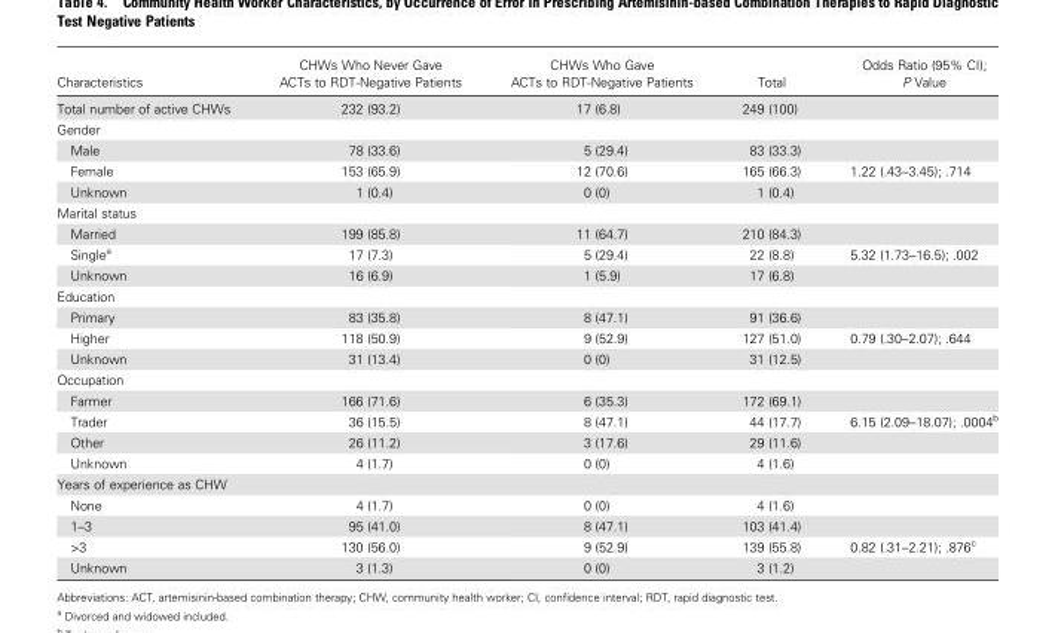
<table><thead><tr><td>Characteristics</td><td>CHWs Who Never Gave ACTs to RDT-Negative Patients</td><td>CHWs Who Gave ACTs to RDT-Negative Patients</td><td>Total</td><td>Odds Ratio (95% CI); P Value</td></tr></thead><tbody><tr><td>Total number of active CHWs</td><td>232 (93.2)</td><td>17 (6.8)</td><td>249 (100)</td><td></td></tr><tr><td colspan="5">Gender</td></tr><tr><td>Male</td><td>78 (33.6)</td><td>5 (29.4)</td><td>83 (33.3)</td><td></td></tr><tr><td>Female</td><td>153 (65.9)</td><td>12 (70.6)</td><td>165 (66.3)</td><td>1.22 (.43–3.45); .714</td></tr><tr><td>Unknown</td><td>1 (0.4)</td><td>0 (0)</td><td>1 (0.4)</td><td></td></tr><tr><td colspan="5">Marital status</td></tr><tr><td>Married</td><td>199 (85.8)</td><td>11 (64.7)</td><td>210 (84.3)</td><td></td></tr><tr><td>Single<sup>a</sup></td><td>17 (7.3)</td><td>5 (29.4)</td><td>22 (8.8)</td><td>5.32 (1.73–16.5); .002</td></tr><tr><td>Unknown</td><td>16 (6.9)</td><td>1 (5.9)</td><td>17 (6.8)</td><td></td></tr><tr><td colspan="5">Education</td></tr><tr><td>Primary</td><td>83 (35.8)</td><td>8 (47.1)</td><td>91 (36.6)</td><td></td></tr><tr><td>Higher</td><td>118 (50.9)</td><td>9 (52.9)</td><td>127 (51.0)</td><td>0.79 (.30–2.07); .644</td></tr><tr><td>Unknown</td><td>31 (13.4)</td><td>0 (0)</td><td>31 (12.5)</td><td></td></tr><tr><td colspan="5">Occupation</td></tr><tr><td>Farmer</td><td>166 (71.6)</td><td>6 (35.3)</td><td>172 (69.1)</td><td></td></tr><tr><td>Trader</td><td>36 (15.5)</td><td>8 (47.1)</td><td>44 (17.7)</td><td>6.15 (2.09–18.07); .0004<sup>b</sup></td></tr><tr><td>Other</td><td>26 (11.2)</td><td>3 (17.6)</td><td>29 (11.6)</td><td></td></tr><tr><td>Unknown</td><td>4 (1.7)</td><td>0 (0)</td><td>4 (1.6)</td><td></td></tr><tr><td colspan="5">Years of experience as CHW</td></tr><tr><td>None</td><td>4 (1.7)</td><td>0 (0)</td><td>4 (1.6)</td><td></td></tr><tr><td>1–3</td><td>95 (41.0)</td><td>8 (47.1)</td><td>103 (41.4)</td><td></td></tr><tr><td>&gt;3</td><td>130 (56.0)</td><td>9 (52.9)</td><td>139 (55.8)</td><td>0.82 (.31–2.21); .876<sup>c</sup></td></tr><tr><td>Unknown</td><td>3 (1.3)</td><td>0 (0)</td><td>3 (1.2)</td><td></td></tr></tbody></table>